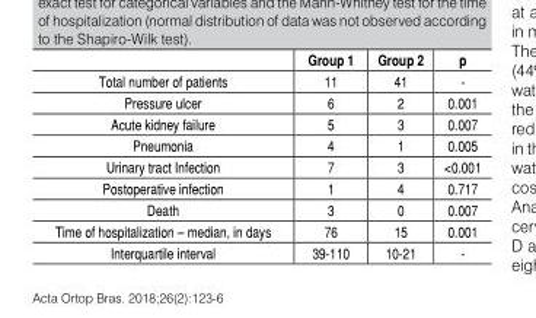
<table><thead><tr><td></td><td>Group 1</td><td>Group 2</td><td>p</td></tr></thead><tbody><tr><td>Total number of patients</td><td>11</td><td>41</td><td>-</td></tr><tr><td>Pressure ulcer</td><td>6</td><td>2</td><td>0.001</td></tr><tr><td>Acute kidney failure</td><td>5</td><td>3</td><td>0.007</td></tr><tr><td>Pneumonia</td><td>4</td><td>1</td><td>0.005</td></tr><tr><td>Urinary tract Infection</td><td>7</td><td>3</td><td>&lt;0.001</td></tr><tr><td>Postoperative infection</td><td>1</td><td>4</td><td>0.717</td></tr><tr><td>Death</td><td>3</td><td>0</td><td>0.007</td></tr><tr><td>Time of hospitalization – median, in days</td><td>76</td><td>15</td><td>0.001</td></tr><tr><td>Interquartile interval</td><td>39-110</td><td>10-21</td><td>-</td></tr></tbody></table>